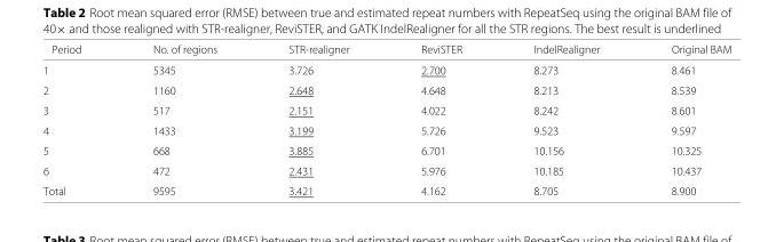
<table><thead><tr><td>Period</td><td>No. of regions</td><td>STR-realigner</td><td>ReviSTER</td><td>IndelRealigner</td><td>Original BAM</td></tr></thead><tbody><tr><td>1</td><td>5345</td><td>3.726</td><td>2.700</td><td>8.273</td><td>8.461</td></tr><tr><td>2</td><td>1160</td><td>2.648</td><td>4.648</td><td>8.213</td><td>8.539</td></tr><tr><td>3</td><td>517</td><td>2.151</td><td>4.022</td><td>8.242</td><td>8.601</td></tr><tr><td>4</td><td>1433</td><td>3.199</td><td>5.726</td><td>9.523</td><td>9.597</td></tr><tr><td>5</td><td>668</td><td>3.885</td><td>6.701</td><td>10.156</td><td>10.325</td></tr><tr><td>6</td><td>472</td><td>2.431</td><td>5.976</td><td>10.185</td><td>10.437</td></tr><tr><td>Total</td><td>9595</td><td>3.421</td><td>4.162</td><td>8.705</td><td>8.900</td></tr></tbody></table>